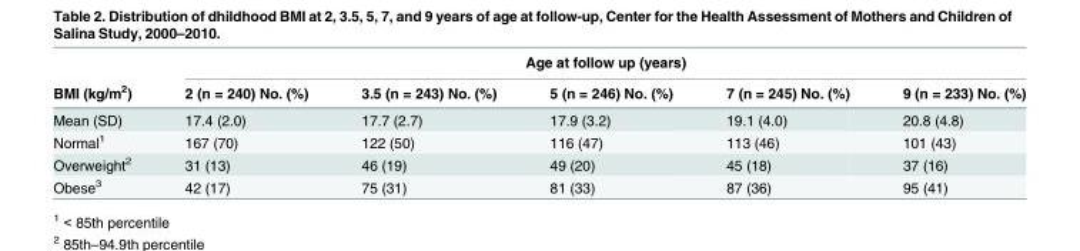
<table><thead><tr><td rowspan="2">BMI (kg/m<sup>2</sup>)</td><td colspan="5">Age at follow up (years)</td></tr><tr><td>2 (n = 240) No. (%)</td><td>3.5 (n = 243) No. (%)</td><td>5 (n = 246) No. (%)</td><td>7 (n = 245) No. (%)</td><td>9 (n = 233) No. (%)</td></tr></thead><tbody><tr><td>Mean (SD)</td><td>17.4 (2.0)</td><td>17.7 (2.7)</td><td>17.9 (3.2)</td><td>19.1 (4.0)</td><td>20.8 (4.8)</td></tr><tr><td>Normal<sup>1</sup></td><td>167 (70)</td><td>122 (50)</td><td>116 (47)</td><td>113 (46)</td><td>101 (43)</td></tr><tr><td>Overweight<sup>2</sup></td><td>31 (13)</td><td>46 (19)</td><td>49 (20)</td><td>45 (18)</td><td>37 (16)</td></tr><tr><td>Obese<sup>3</sup></td><td>42 (17)</td><td>75 (31)</td><td>81 (33)</td><td>87 (36)</td><td>95 (41)</td></tr></tbody></table>